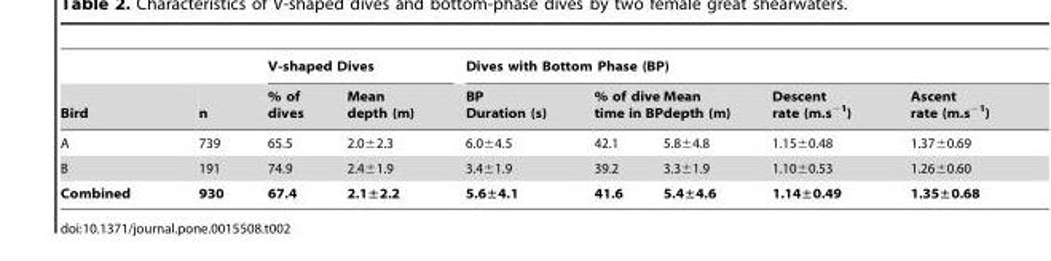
<table><thead><tr><td rowspan="2">Bird</td><td rowspan="2">n</td><td colspan="2">V-shaped Dives</td><td colspan="5">Dives with Bottom Phase (BP)</td></tr><tr><td>% of dives</td><td>Mean depth (m)</td><td>BP Duration (s)</td><td>% of dive time in BP</td><td>Mean depth (m)</td><td>Descent rate (m.s<sup>−1</sup>)</td><td>Ascent rate (m.s<sup>−1</sup>)</td></tr></thead><tbody><tr><td>A</td><td>739</td><td>65.5</td><td>2.0±2.3</td><td>6.0±4.5</td><td>42.1</td><td>5.8±4.8</td><td>1.15±0.48</td><td>1.37±0.69</td></tr><tr><td>B</td><td>191</td><td>74.9</td><td>2.4±1.9</td><td>3.4±1.9</td><td>39.2</td><td>3.3±1.9</td><td>1.10±0.53</td><td>1.26±0.60</td></tr><tr><td>Combined</td><td>930</td><td>67.4</td><td>2.1±2.2</td><td>5.6±4.1</td><td>41.6</td><td>5.4±4.6</td><td>1.14±0.49</td><td>1.35±0.68</td></tr></tbody></table>